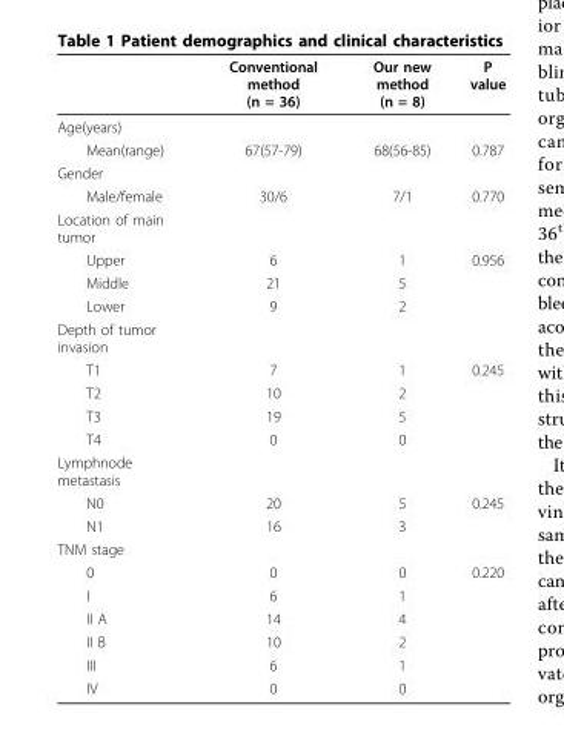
<table><thead><tr><td></td><td>Conventional method (n = 36)</td><td>Our new method (n = 8)</td><td>P value</td></tr></thead><tbody><tr><td colspan="4">Age(years)</td></tr><tr><td>Mean(range)</td><td>67(57-79)</td><td>68(56-85)</td><td>0.787</td></tr><tr><td colspan="4">Gender</td></tr><tr><td>Male/female</td><td>30/6</td><td>7/1</td><td>0.770</td></tr><tr><td colspan="4">Location of main tumor</td></tr><tr><td>Upper</td><td>6</td><td>1</td><td>0.956</td></tr><tr><td>Middle</td><td>21</td><td>5</td><td></td></tr><tr><td>Lower</td><td>9</td><td>2</td><td></td></tr><tr><td colspan="4">Depth of tumor invasion</td></tr><tr><td>T1</td><td>7</td><td>1</td><td>0.245</td></tr><tr><td>T2</td><td>10</td><td>2</td><td></td></tr><tr><td>T3</td><td>19</td><td>5</td><td></td></tr><tr><td>T4</td><td>0</td><td>0</td><td></td></tr><tr><td colspan="4">Lymphnode metastasis</td></tr><tr><td>N0</td><td>20</td><td>5</td><td>0.245</td></tr><tr><td>N1</td><td>16</td><td>3</td><td></td></tr><tr><td colspan="4">TNM stage</td></tr><tr><td>0</td><td>0</td><td>0</td><td>0.220</td></tr><tr><td>I</td><td>6</td><td>1</td><td></td></tr><tr><td>II A</td><td>14</td><td>4</td><td></td></tr><tr><td>II B</td><td>10</td><td>2</td><td></td></tr><tr><td>III</td><td>6</td><td>1</td><td></td></tr><tr><td>IV</td><td>0</td><td>0</td><td></td></tr></tbody></table>